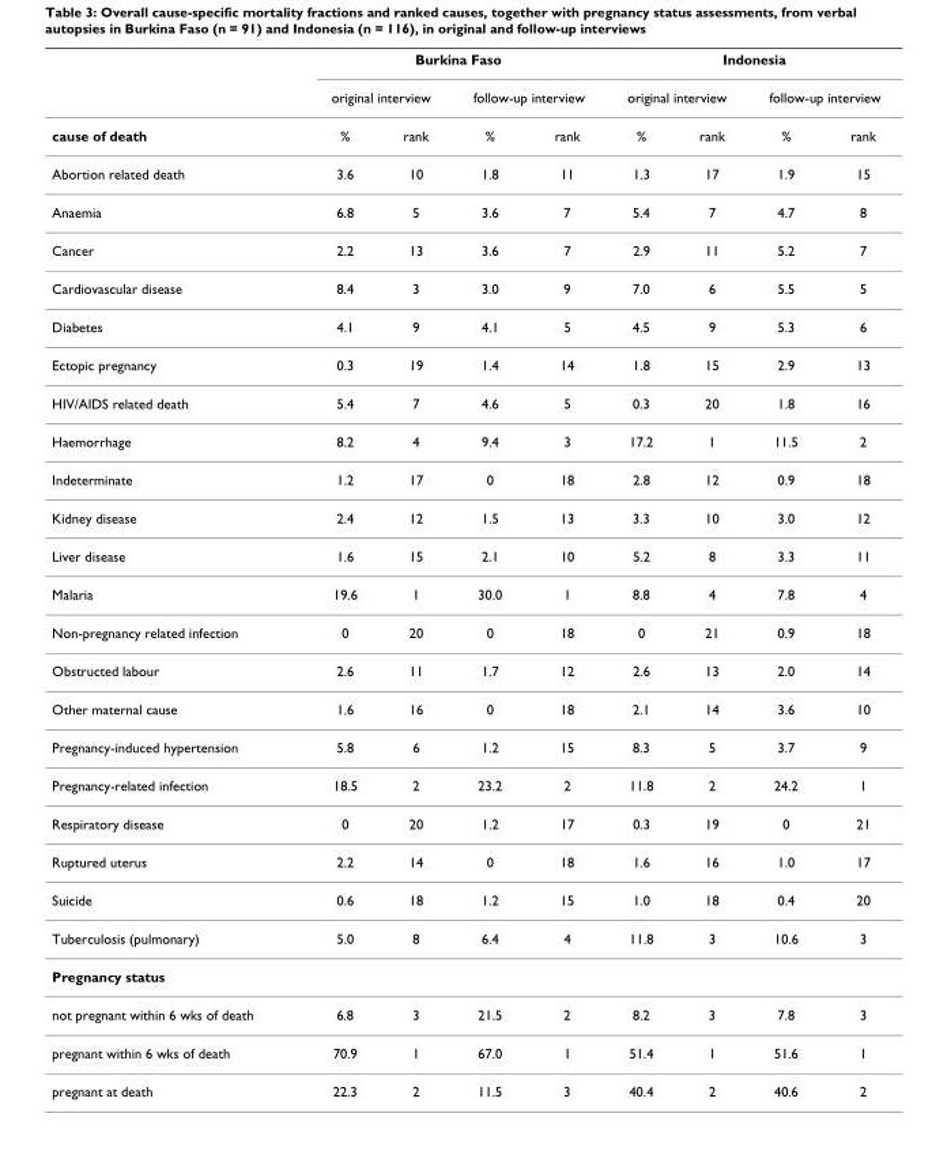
<table><thead><tr><td rowspan="3">cause of death</td><td colspan="4">Burkina Faso</td><td colspan="4">Indonesia</td></tr><tr><td colspan="2">original interview</td><td colspan="2">follow-up interview</td><td colspan="2">original interview</td><td colspan="2">follow-up interview</td></tr><tr><td>%</td><td>rank</td><td>%</td><td>rank</td><td>%</td><td>rank</td><td>%</td><td>rank</td></tr></thead><tbody><tr><td>Abortion related death</td><td>3.6</td><td>10</td><td>1.8</td><td>11</td><td>1.3</td><td>17</td><td>1.9</td><td>15</td></tr><tr><td>Anaemia</td><td>6.8</td><td>5</td><td>3.6</td><td>7</td><td>5.4</td><td>7</td><td>4.7</td><td>8</td></tr><tr><td>Cancer</td><td>2.2</td><td>13</td><td>3.6</td><td>7</td><td>2.9</td><td>11</td><td>5.2</td><td>7</td></tr><tr><td>Cardiovascular disease</td><td>8.4</td><td>3</td><td>3.0</td><td>9</td><td>7.0</td><td>6</td><td>5.5</td><td>5</td></tr><tr><td>Diabetes</td><td>4.1</td><td>9</td><td>4.1</td><td>5</td><td>4.5</td><td>9</td><td>5.3</td><td>6</td></tr><tr><td>Ectopic pregnancy</td><td>0.3</td><td>19</td><td>1.4</td><td>14</td><td>1.8</td><td>15</td><td>2.9</td><td>13</td></tr><tr><td>HIV/AIDS related death</td><td>5.4</td><td>7</td><td>4.6</td><td>5</td><td>0.3</td><td>20</td><td>1.8</td><td>16</td></tr><tr><td>Haemorrhage</td><td>8.2</td><td>4</td><td>9.4</td><td>3</td><td>17.2</td><td>1</td><td>11.5</td><td>2</td></tr><tr><td>Indeterminate</td><td>1.2</td><td>17</td><td>0</td><td>18</td><td>2.8</td><td>12</td><td>0.9</td><td>18</td></tr><tr><td>Kidney disease</td><td>2.4</td><td>12</td><td>1.5</td><td>13</td><td>3.3</td><td>10</td><td>3.0</td><td>12</td></tr><tr><td>Liver disease</td><td>1.6</td><td>15</td><td>2.1</td><td>10</td><td>5.2</td><td>8</td><td>3.3</td><td>11</td></tr><tr><td>Malaria</td><td>19.6</td><td>1</td><td>30.0</td><td>1</td><td>8.8</td><td>4</td><td>7.8</td><td>4</td></tr><tr><td>Non-pregnancy related infection</td><td>0</td><td>20</td><td>0</td><td>18</td><td>0</td><td>21</td><td>0.9</td><td>18</td></tr><tr><td>Obstructed labour</td><td>2.6</td><td>11</td><td>1.7</td><td>12</td><td>2.6</td><td>13</td><td>2.0</td><td>14</td></tr><tr><td>Other maternal cause</td><td>1.6</td><td>16</td><td>0</td><td>18</td><td>2.1</td><td>14</td><td>3.6</td><td>10</td></tr><tr><td>Pregnancy-induced hypertension</td><td>5.8</td><td>6</td><td>1.2</td><td>15</td><td>8.3</td><td>5</td><td>3.7</td><td>9</td></tr><tr><td>Pregnancy-related infection</td><td>18.5</td><td>2</td><td>23.2</td><td>2</td><td>11.8</td><td>2</td><td>24.2</td><td>1</td></tr><tr><td>Respiratory disease</td><td>0</td><td>20</td><td>1.2</td><td>17</td><td>0.3</td><td>19</td><td>0</td><td>21</td></tr><tr><td>Ruptured uterus</td><td>2.2</td><td>14</td><td>0</td><td>18</td><td>1.6</td><td>16</td><td>1.0</td><td>17</td></tr><tr><td>Suicide</td><td>0.6</td><td>18</td><td>1.2</td><td>15</td><td>1.0</td><td>18</td><td>0.4</td><td>20</td></tr><tr><td>Tuberculosis (pulmonary)</td><td>5.0</td><td>8</td><td>6.4</td><td>4</td><td>11.8</td><td>3</td><td>10.6</td><td>3</td></tr><tr><td colspan="9">Pregnancy status</td></tr><tr><td>not pregnant within 6 wks of death</td><td>6.8</td><td>3</td><td>21.5</td><td>2</td><td>8.2</td><td>3</td><td>7.8</td><td>3</td></tr><tr><td>pregnant within 6 wks of death</td><td>70.9</td><td>1</td><td>67.0</td><td>1</td><td>51.4</td><td>1</td><td>51.6</td><td>1</td></tr><tr><td>pregnant at death</td><td>22.3</td><td>2</td><td>11.5</td><td>3</td><td>40.4</td><td>2</td><td>40.6</td><td>2</td></tr></tbody></table>